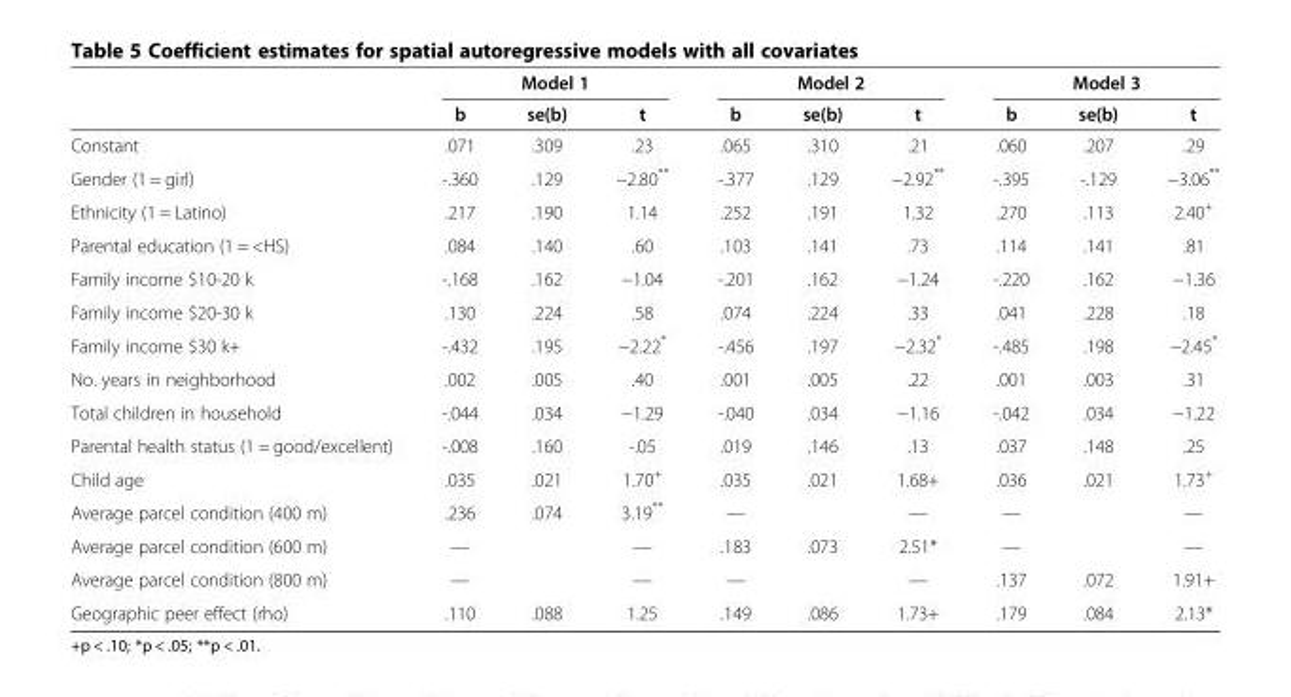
<table><thead><tr><td rowspan="2"></td><td colspan="3">Model 1</td><td colspan="3">Model 2</td><td colspan="3">Model 3</td></tr><tr><td>b</td><td>se(b)</td><td>t</td><td>b</td><td>se(b)</td><td>t</td><td>b</td><td>se(b)</td><td>t</td></tr></thead><tbody><tr><td>Constant</td><td>.071</td><td>.309</td><td>.23</td><td>.065</td><td>.310</td><td>.21</td><td>.060</td><td>.207</td><td>.29</td></tr><tr><td>Gender (1 = girl)</td><td>-.360</td><td>.129</td><td>−2.80**</td><td>-.377</td><td>.129</td><td>−2.92**</td><td>-.395</td><td>-.129</td><td>−3.06**</td></tr><tr><td>Ethnicity (1 = Latino)</td><td>.217</td><td>.190</td><td>1.14</td><td>.252</td><td>.191</td><td>1.32</td><td>.270</td><td>.113</td><td>2.40<sup>+</sup></td></tr><tr><td>Parental education (1 = &lt;HS)</td><td>.084</td><td>.140</td><td>.60</td><td>.103</td><td>.141</td><td>.73</td><td>.114</td><td>.141</td><td>.81</td></tr><tr><td>Family income $10-20 k</td><td>-.168</td><td>.162</td><td>−1.04</td><td>-.201</td><td>.162</td><td>−1.24</td><td>-.220</td><td>.162</td><td>−1.36</td></tr><tr><td>Family income $20-30 k</td><td>.130</td><td>.224</td><td>.58</td><td>.074</td><td>.224</td><td>.33</td><td>.041</td><td>.228</td><td>.18</td></tr><tr><td>Family income $30 k+</td><td>-.432</td><td>.195</td><td>−2.22*</td><td>-.456</td><td>.197</td><td>−2.32*</td><td>-.485</td><td>.198</td><td>−2.45*</td></tr><tr><td>No. years in neighborhood</td><td>.002</td><td>.005</td><td>.40</td><td>.001</td><td>.005</td><td>.22</td><td>.001</td><td>.003</td><td>.31</td></tr><tr><td>Total children in household</td><td>-.044</td><td>.034</td><td>−1.29</td><td>-.040</td><td>.034</td><td>−1.16</td><td>-.042</td><td>.034</td><td>−1.22</td></tr><tr><td>Parental health status (1 = good/excellent)</td><td>-.008</td><td>.160</td><td>-.05</td><td>.019</td><td>.146</td><td>.13</td><td>.037</td><td>.148</td><td>.25</td></tr><tr><td>Child age</td><td>.035</td><td>.021</td><td>1.70<sup>+</sup></td><td>.035</td><td>.021</td><td>1.68+</td><td>.036</td><td>.021</td><td>1.73<sup>+</sup></td></tr><tr><td>Average parcel condition (400 m)</td><td>.236</td><td>.074</td><td>3.19**</td><td>—</td><td></td><td>—</td><td>—</td><td></td><td>—</td></tr><tr><td>Average parcel condition (600 m)</td><td>—</td><td></td><td>—</td><td>.183</td><td>.073</td><td>2.51*</td><td>—</td><td></td><td>—</td></tr><tr><td>Average parcel condition (800 m)</td><td>—</td><td></td><td>—</td><td>—</td><td></td><td>—</td><td>.137</td><td>.072</td><td>1.91+</td></tr><tr><td>Geographic peer effect (rho)</td><td>.110</td><td>.088</td><td>1.25</td><td>.149</td><td>.086</td><td>1.73+</td><td>.179</td><td>.084</td><td>2.13*</td></tr></tbody></table>